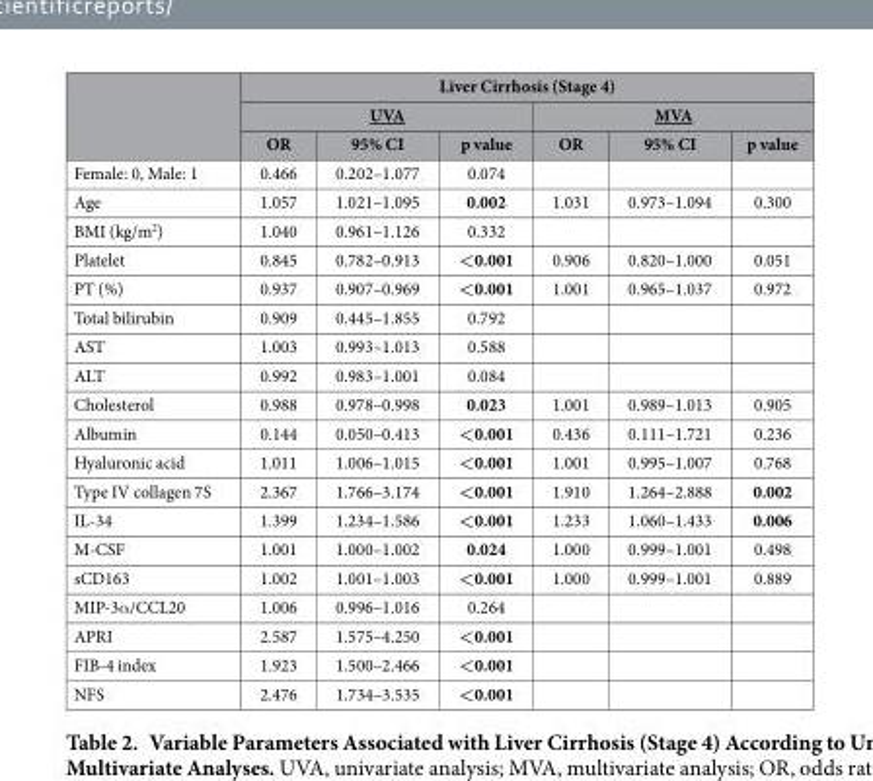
<table><thead><tr><td rowspan="3"></td><td colspan="6">Liver Cirrhosis (Stage 4)</td></tr><tr><td colspan="3">UVA</td><td colspan="3">MVA</td></tr><tr><td>OR</td><td>95% CI</td><td>p value</td><td>OR</td><td>95% CI</td><td>p value</td></tr></thead><tbody><tr><td>Female: 0, Male: 1</td><td>0.466</td><td>0.202–1.077</td><td>0.074</td><td></td><td></td><td></td></tr><tr><td>Age</td><td>1.057</td><td>1.021–1.095</td><td>0.002</td><td>1.031</td><td>0.973–1.094</td><td>0.300</td></tr><tr><td>BMI (kg/m<sup>2</sup>)</td><td>1.040</td><td>0.961–1.126</td><td>0.332</td><td></td><td></td><td></td></tr><tr><td>Platelet</td><td>0.845</td><td>0.782–0.913</td><td>&lt;0.001</td><td>0.906</td><td>0.820–1.000</td><td>0.051</td></tr><tr><td>PT (%)</td><td>0.937</td><td>0.907–0.969</td><td>&lt;0.001</td><td>1.001</td><td>0.965–1.037</td><td>0.972</td></tr><tr><td>Total bilirubin</td><td>0.909</td><td>0.445–1.855</td><td>0.792</td><td></td><td></td><td></td></tr><tr><td>AST</td><td>1.003</td><td>0.993–1.013</td><td>0.588</td><td></td><td></td><td></td></tr><tr><td>ALT</td><td>0.992</td><td>0.983–1.001</td><td>0.084</td><td></td><td></td><td></td></tr><tr><td>Cholesterol</td><td>0.988</td><td>0.978–0.998</td><td>0.023</td><td>1.001</td><td>0.989–1.013</td><td>0.905</td></tr><tr><td>Albumin</td><td>0.144</td><td>0.050–0.413</td><td>&lt;0.001</td><td>0.436</td><td>0.111–1.721</td><td>0.236</td></tr><tr><td>Hyaluronic acid</td><td>1.011</td><td>1.006–1.015</td><td>&lt;0.001</td><td>1.001</td><td>0.995–1.007</td><td>0.768</td></tr><tr><td>Type IV collagen 7S</td><td>2.367</td><td>1.766–3.174</td><td>&lt;0.001</td><td>1.910</td><td>1.264–2.888</td><td>0.002</td></tr><tr><td>IL-34</td><td>1.399</td><td>1.234–1.586</td><td>&lt;0.001</td><td>1.233</td><td>1.060–1.433</td><td>0.006</td></tr><tr><td>M-CSF</td><td>1.001</td><td>1.000–1.002</td><td>0.024</td><td>1.000</td><td>0.999–1.001</td><td>0.498</td></tr><tr><td>sCD163</td><td>1.002</td><td>1.001–1.003</td><td>&lt;0.001</td><td>1.000</td><td>0.999–1.001</td><td>0.889</td></tr><tr><td>MIP-3α /CCL20</td><td>1.006</td><td>0.996–1.016</td><td>0.264</td><td></td><td></td><td></td></tr><tr><td>APRI</td><td>2.587</td><td>1.575–4.250</td><td>&lt;0.001</td><td></td><td></td><td></td></tr><tr><td>FIB-4 index</td><td>1.923</td><td>1.500–2.466</td><td>&lt;0.001</td><td></td><td></td><td></td></tr><tr><td>NFS</td><td>2.476</td><td>1.734–3.535</td><td>&lt;0.001</td><td></td><td></td><td></td></tr></tbody></table>